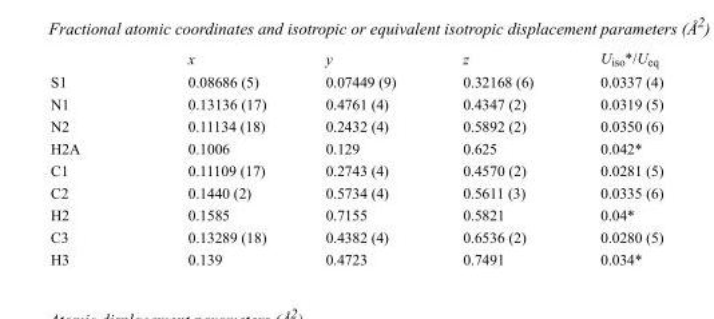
<table><thead><tr><td></td><td>x</td><td>y</td><td>z</td><td>U<sub>iso</sub>*/U<sub>eq</sub></td></tr></thead><tbody><tr><td>S1</td><td>0.08686 (5)</td><td>0.07449 (9)</td><td>0.32168 (6)</td><td>0.0337 (4)</td></tr><tr><td>N1</td><td>0.13136 (17)</td><td>0.4761 (4)</td><td>0.4347 (2)</td><td>0.0319 (5)</td></tr><tr><td>N2</td><td>0.11134 (18)</td><td>0.2432 (4)</td><td>0.5892 (2)</td><td>0.0350 (6)</td></tr><tr><td>H2A</td><td>0.1006</td><td>0.129</td><td>0.625</td><td>0.042*</td></tr><tr><td>C1</td><td>0.11109 (17)</td><td>0.2743 (4)</td><td>0.4570 (2)</td><td>0.0281 (5)</td></tr><tr><td>C2</td><td>0.1440 (2)</td><td>0.5734 (4)</td><td>0.5611 (3)</td><td>0.0335 (6)</td></tr><tr><td>H2</td><td>0.1585</td><td>0.7155</td><td>0.5821</td><td>0.04*</td></tr><tr><td>C3</td><td>0.13289 (18)</td><td>0.4382 (4)</td><td>0.6536 (2)</td><td>0.0280 (5)</td></tr><tr><td>H3</td><td>0.139</td><td>0.4723</td><td>0.7491</td><td>0.034*</td></tr></tbody></table>